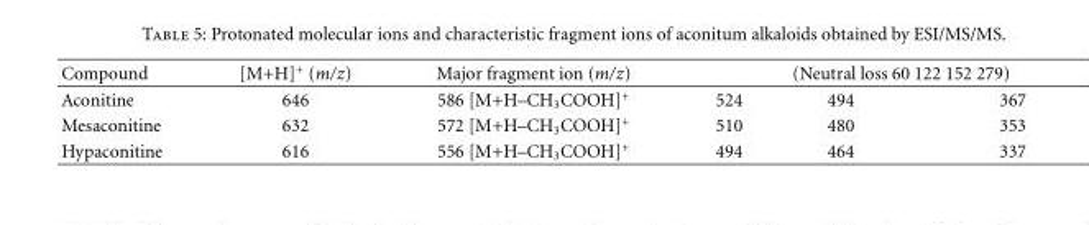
<table><thead><tr><td rowspan="2">Compound Aconitine</td><td rowspan="2">[M+H]<sup>+</sup> (m/z) 646</td><td rowspan="2">Major fragment ion (m/z) 586 [M+H–CH<sub>3</sub>COOH]<sup>+</sup></td><td colspan="3">(Neutral loss 60 122 152 279)</td></tr><tr><td>524</td><td>494</td><td>367</td></tr></thead><tbody><tr><td>Mesaconitine</td><td>632</td><td>572 [M+H–CH<sub>3</sub>COOH]<sup>+</sup></td><td>510</td><td>480</td><td>353</td></tr><tr><td>Hypaconitine</td><td>616</td><td>556 [M+H–CH<sub>3</sub>COOH]<sup>+</sup></td><td>494</td><td>464</td><td>337</td></tr></tbody></table>